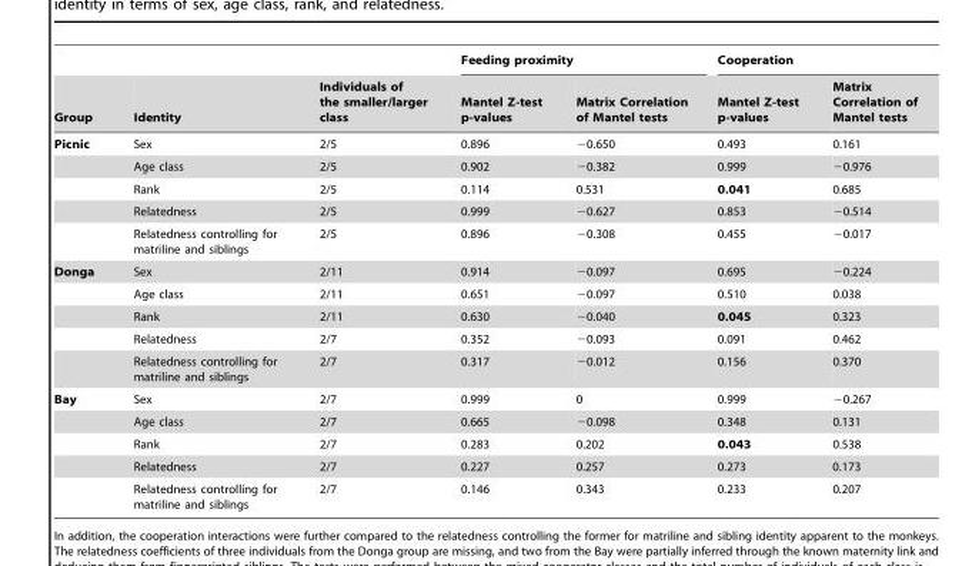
<table><thead><tr><td rowspan="2">Group</td><td rowspan="2">Identity</td><td rowspan="2">Individuals of the smaller/larger class</td><td colspan="2">Feeding proximity</td><td colspan="2">Cooperation</td></tr><tr><td>Mantel Z-test p-values</td><td>Matrix Correlation of Mantel tests</td><td>Mantel Z-test p-values</td><td>Matrix Correlation of Mantel tests</td></tr></thead><tbody><tr><td rowspan="5">Picnic</td><td>Sex</td><td>2/5</td><td>0.896</td><td>−0.650</td><td>0.493</td><td>0.161</td></tr><tr><td>Age class</td><td>2/5</td><td>0.902</td><td>−0.382</td><td>0.999</td><td>−0.976</td></tr><tr><td>Rank</td><td>2/5</td><td>0.114</td><td>0.531</td><td>0.041</td><td>0.685</td></tr><tr><td>Relatedness</td><td>2/5</td><td>0.999</td><td>−0.627</td><td>0.853</td><td>−0.514</td></tr><tr><td>Relatedness controlling for matriline and siblings</td><td>2/5</td><td>0.896</td><td>−0.308</td><td>0.455</td><td>−0.017</td></tr><tr><td rowspan="5">Donga</td><td>Sex</td><td>2/11</td><td>0.914</td><td>−0.097</td><td>0.695</td><td>−0.224</td></tr><tr><td>Age class</td><td>2/11</td><td>0.651</td><td>−0.097</td><td>0.510</td><td>0.038</td></tr><tr><td>Rank</td><td>2/11</td><td>0.630</td><td>−0.040</td><td>0.045</td><td>0.323</td></tr><tr><td>Relatedness</td><td>2/7</td><td>0.352</td><td>−0.093</td><td>0.091</td><td>0.462</td></tr><tr><td>Relatedness controlling for matriline and siblings</td><td>2/7</td><td>0.317</td><td>−0.012</td><td>0.156</td><td>0.370</td></tr><tr><td rowspan="5">Bay</td><td>Sex</td><td>2/7</td><td>0.999</td><td>0</td><td>0.999</td><td>−0.267</td></tr><tr><td>Age class</td><td>2/7</td><td>0.665</td><td>−0.098</td><td>0.348</td><td>0.131</td></tr><tr><td>Rank</td><td>2/7</td><td>0.283</td><td>0.202</td><td>0.043</td><td>0.538</td></tr><tr><td>Relatedness</td><td>2/7</td><td>0.227</td><td>0.257</td><td>0.273</td><td>0.173</td></tr><tr><td>Relatedness controlling for matriline and siblings</td><td>2/7</td><td>0.146</td><td>0.343</td><td>0.233</td><td>0.207</td></tr></tbody></table>